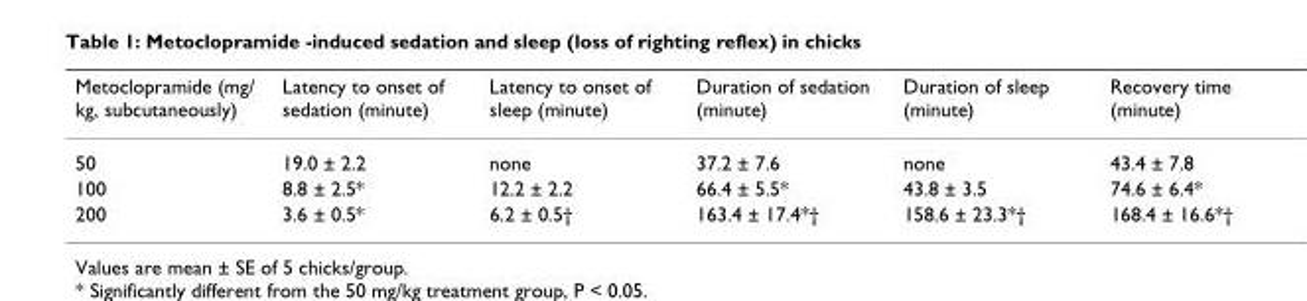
<table><thead><tr><td>Metoclopramide (mg/ kg, subcutaneously)</td><td>Latency to onset of sedation (minute)</td><td>Latency to onset of sleep (minute)</td><td>Duration of sedation (minute)</td><td>Duration of sleep (minute)</td><td>Recovery time (minute)</td></tr></thead><tbody><tr><td>50</td><td>19.0 ± 2.2</td><td>none</td><td>37.2 ± 7.6</td><td>none</td><td>43.4 ± 7.8</td></tr><tr><td>100</td><td>8.8 ± 2.5*</td><td>12.2 ± 2.2</td><td>66.4 ± 5.5*</td><td>43.8 ± 3.5</td><td>74.6 ± 6.4*</td></tr><tr><td>200</td><td>3.6 ± 0.5*</td><td>6.2 ± 0.5†</td><td>163.4 ± 17.4*†</td><td>158.6 ± 23.3*†</td><td>168.4 ± 16.6*†</td></tr></tbody></table>